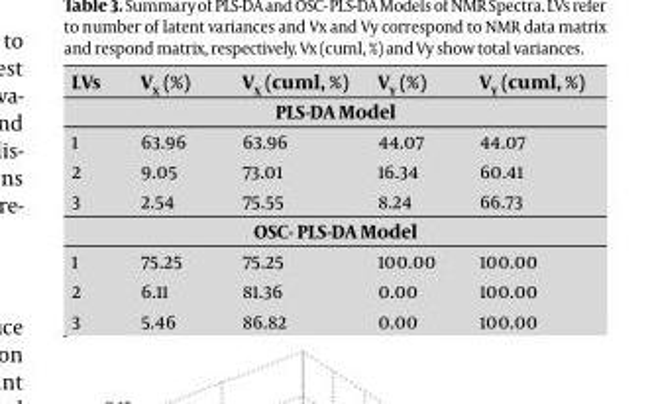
<table><thead><tr><td>LV<sub>s</sub></td><td>V<sub>X</sub> (%)</td><td>V<sub>X</sub> (cuml, %)</td><td>V<sub>Y</sub> (%)</td><td>V<sub>Y</sub> (cuml, %)</td></tr></thead><tbody><tr><td colspan="5">PLS-DA Model</td></tr><tr><td>1</td><td>63.96</td><td>63.96</td><td>44.07</td><td>44.07</td></tr><tr><td>2</td><td>9.05</td><td>73.01</td><td>16.34</td><td>60.41</td></tr><tr><td>3</td><td>2.54</td><td>75.55</td><td>8.24</td><td>66.73</td></tr><tr><td colspan="5">OSC- PLS-DA Model</td></tr><tr><td>1</td><td>75.25</td><td>75.25</td><td>100.00</td><td>100.00</td></tr><tr><td>2</td><td>6.11</td><td>81.36</td><td>0.00</td><td>100.00</td></tr><tr><td>3</td><td>5.46</td><td>86.82</td><td>0.00</td><td>100.00</td></tr></tbody></table>